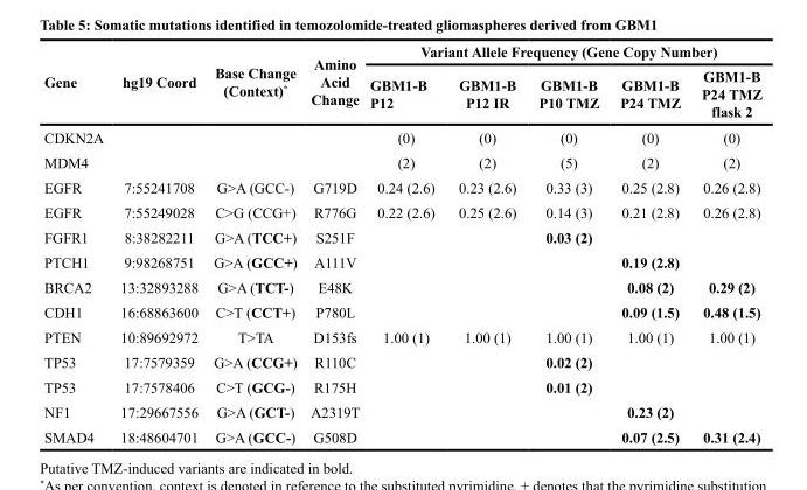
<table><thead><tr><td rowspan="2">Gene</td><td rowspan="2">hg19 Coord</td><td rowspan="2">Base Change (Context)*</td><td rowspan="2">Amino Acid Change</td><td colspan="5">Variant Allele Frequency (Gene Copy Number)</td></tr><tr><td>GBM1-B P12</td><td>GBM1-B P12 IR</td><td>GBM1-B P10 TMZ</td><td>GBM1-B P24 TMZ</td><td>GBM1-B P24 TMZ flask 2</td></tr></thead><tbody><tr><td>CDKN2A</td><td></td><td></td><td></td><td>(0)</td><td>(0)</td><td>(0)</td><td>(0)</td><td>(0)</td></tr><tr><td>MDM4</td><td></td><td></td><td></td><td>(2)</td><td>(2)</td><td>(5)</td><td>(2)</td><td>(2)</td></tr><tr><td>EGFR</td><td>7:55241708</td><td>G&gt;A (GCC-)</td><td>G719D</td><td>0.24 (2.6)</td><td>0.23 (2.6)</td><td>0.33 (3)</td><td>0.25 (2.8)</td><td>0.26 (2.8)</td></tr><tr><td>EGFR</td><td>7:55249028</td><td>C&gt;G (CCG+)</td><td>R776G</td><td>0.22 (2.6)</td><td>0.25 (2.6)</td><td>0.14 (3)</td><td>0.21 (2.8)</td><td>0.26 (2.8)</td></tr><tr><td>FGFR1</td><td>8:38282211</td><td>G&gt;A (TCC+)</td><td>S251F</td><td></td><td></td><td>0.03 (2)</td><td></td><td></td></tr><tr><td>PTCH1</td><td>9:98268751</td><td>G&gt;A (GCC+)</td><td>A111V</td><td></td><td></td><td></td><td>0.19 (2.8)</td><td></td></tr><tr><td>BRCA2</td><td>13:32893288</td><td>G&gt;A (TCT-)</td><td>E48K</td><td></td><td></td><td></td><td>0.08 (2)</td><td>0.29 (2)</td></tr><tr><td>CDH1</td><td>16:68863600</td><td>C&gt;T (CCT+)</td><td>P780L</td><td></td><td></td><td></td><td>0.09 (1.5)</td><td>0.48 (1.5)</td></tr><tr><td>PTEN</td><td>10:89692972</td><td>T&gt;TA</td><td>D153fs</td><td>1.00 (1)</td><td>1.00 (1)</td><td>1.00 (1)</td><td>1.00 (1)</td><td>1.00 (1)</td></tr><tr><td>TP53</td><td>17:7579359</td><td>G&gt;A (CCG+)</td><td>R110C</td><td></td><td></td><td>0.02 (2)</td><td></td><td></td></tr><tr><td>TP53</td><td>17:7578406</td><td>C&gt;T (GCG-)</td><td>R175H</td><td></td><td></td><td>0.01 (2)</td><td></td><td></td></tr><tr><td>NF1</td><td>17:29667556</td><td>G&gt;A (GCT-)</td><td>A2319T</td><td></td><td></td><td></td><td>0.23 (2)</td><td></td></tr><tr><td>SMAD4</td><td>18:48604701</td><td>G&gt;A (GCC-)</td><td>G508D</td><td></td><td></td><td></td><td>0.07 (2.5)</td><td>0.31 (2.4)</td></tr></tbody></table>